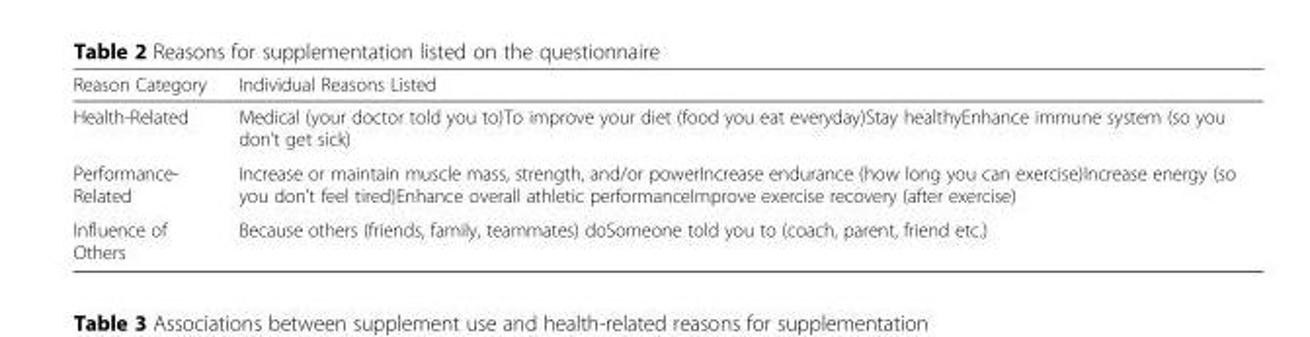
<table><thead><tr><td>Reason Category</td><td>Individual Reasons Listed</td></tr></thead><tbody><tr><td>Health-Related</td><td>Medical (your doctor told you to)To improve your diet (food you eat everyday)Stay healthyEnhance immune system (so you don’t get sick)</td></tr><tr><td>Performance- Related</td><td>Increase or maintain muscle mass, strength, and/or powerIncrease endurance (how long you can exercise)Increase energy (so you don’t feel tired)Enhance overall athletic performanceImprove exercise recovery (after exercise)</td></tr><tr><td>Influence of Others</td><td>Because others (friends, family, teammates) doSomeone told you to (coach, parent, friend etc.)</td></tr></tbody></table>